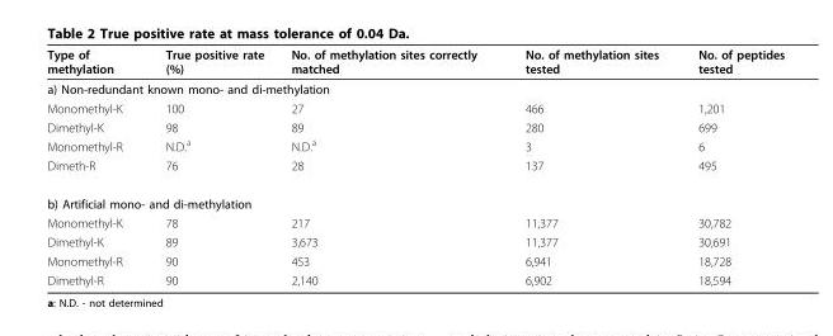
<table><thead><tr><td>Type of methylation</td><td>True positive rate (%)</td><td>No. of methylation sites correctly matched</td><td>No. of methylation sites tested</td><td>No. of peptides tested</td></tr></thead><tbody><tr><td colspan="5">a) Non-redundant known mono- and di-methylation</td></tr><tr><td>Monomethyl-K</td><td>100</td><td>27</td><td>466</td><td>1,201</td></tr><tr><td>Dimethyl-K</td><td>98</td><td>89</td><td>280</td><td>699</td></tr><tr><td>Monomethyl-R</td><td>N.D.<sup>a</sup></td><td>N.D.<sup>a</sup></td><td>3</td><td>6</td></tr><tr><td>Dimeth-R</td><td>76</td><td>28</td><td>137</td><td>495</td></tr><tr><td colspan="5">b) Artificial mono- and di-methylation</td></tr><tr><td>Monomethyl-K</td><td>78</td><td>217</td><td>11,377</td><td>30,782</td></tr><tr><td>Dimethyl-K</td><td>89</td><td>3,673</td><td>11,377</td><td>30,691</td></tr><tr><td>Monomethyl-R</td><td>90</td><td>453</td><td>6,941</td><td>18,728</td></tr><tr><td>Dimethyl-R</td><td>90</td><td>2,140</td><td>6,902</td><td>18,594</td></tr></tbody></table>